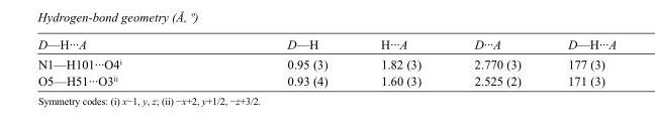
<table><tbody><tr><td>D—H···A</td><td>D—H</td><td>H···A</td><td>D···A</td><td>D—H···A</td></tr><tr><td>N1—H101···O4<sup>i</sup></td><td>0.95 (3)</td><td>1.82 (3)</td><td>2.770 (3)</td><td>177 (3)</td></tr><tr><td>O5—H51···O3<sup>ii</sup></td><td>0.93 (4)</td><td>1.60 (3)</td><td>2.525 (2)</td><td>171 (3)</td></tr></tbody></table>